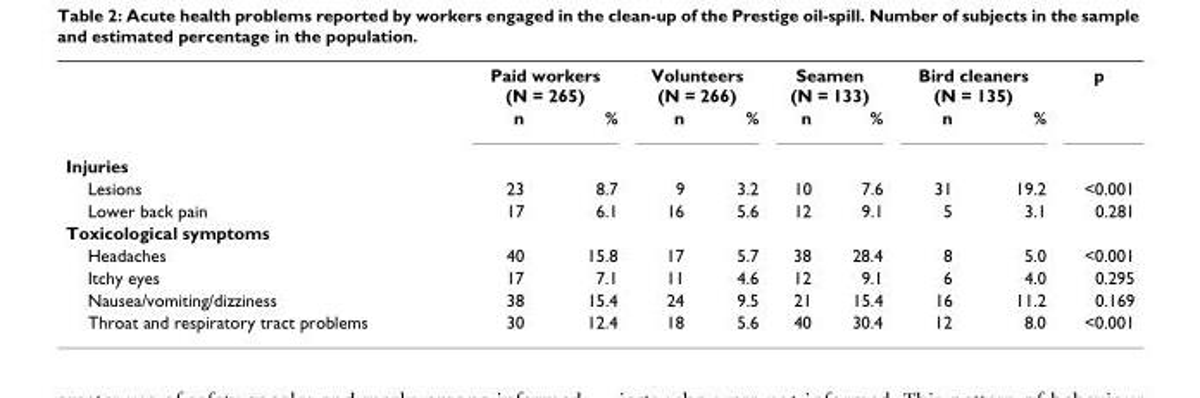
<table><thead><tr><td rowspan="2"></td><td colspan="2">Paid workers (N = 265)</td><td colspan="2">Volunteers (N = 266)</td><td colspan="2">Seamen (N = 133)</td><td colspan="2">Bird cleaners (N = 135)</td><td rowspan="2">p</td></tr><tr><td>n</td><td>%</td><td>n</td><td>%</td><td>n</td><td>%</td><td>n</td><td>%</td></tr></thead><tbody><tr><td colspan="10">Injuries</td></tr><tr><td>Lesions</td><td>23</td><td>8.7</td><td>9</td><td>3.2</td><td>10</td><td>7.6</td><td>31</td><td>19.2</td><td>&lt;0.001</td></tr><tr><td>Lower back pain</td><td>17</td><td>6.1</td><td>16</td><td>5.6</td><td>12</td><td>9.1</td><td>5</td><td>3.1</td><td>0.281</td></tr><tr><td colspan="10">Toxicological symptoms</td></tr><tr><td>Headaches</td><td>40</td><td>15.8</td><td>17</td><td>5.7</td><td>38</td><td>28.4</td><td>8</td><td>5.0</td><td>&lt;0.001</td></tr><tr><td>Itchy eyes</td><td>17</td><td>7.1</td><td>11</td><td>4.6</td><td>12</td><td>9.1</td><td>6</td><td>4.0</td><td>0.295</td></tr><tr><td>Nausea/vomiting/dizziness</td><td>38</td><td>15.4</td><td>24</td><td>9.5</td><td>21</td><td>15.4</td><td>16</td><td>11.2</td><td>0.169</td></tr><tr><td>Throat and respiratory tract problems</td><td>30</td><td>12.4</td><td>18</td><td>5.6</td><td>40</td><td>30.4</td><td>12</td><td>8.0</td><td>&lt;0.001</td></tr></tbody></table>